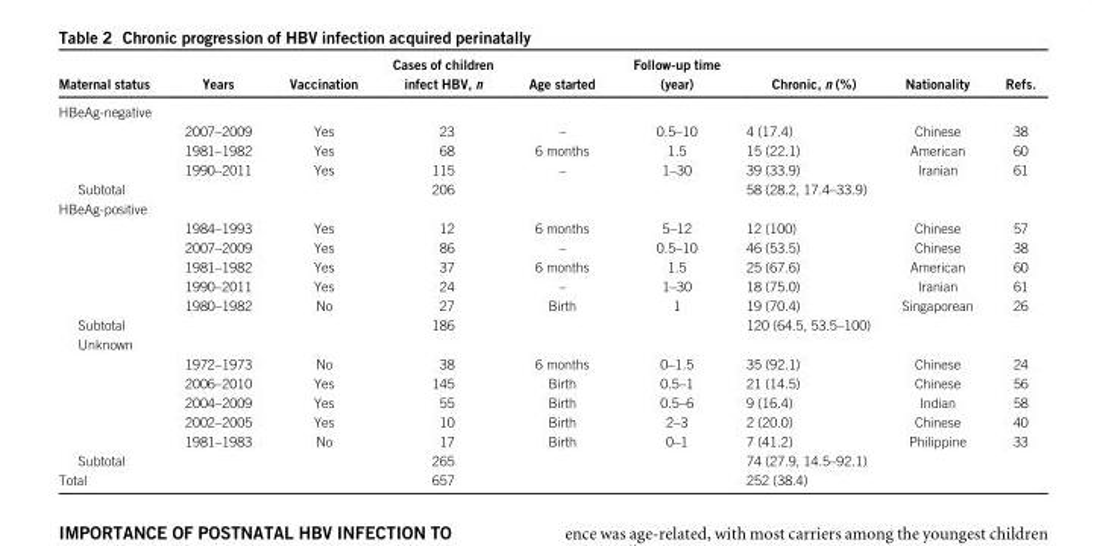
<table><tbody><tr><td>Maternal status</td><td>Years</td><td>Vaccination</td><td>Cases of children infect HBV, n</td><td>Age started</td><td>Follow-up time (year)</td><td>Chronic, n (%)</td><td>Nationality</td><td>Refs.</td></tr><tr><td colspan="9">HBeAg-negative</td></tr><tr><td></td><td>2007–2009</td><td>Yes</td><td>23</td><td>–</td><td>0.5–10</td><td>4 (17.4)</td><td>Chinese</td><td><sup>38</sup></td></tr><tr><td></td><td>1981–1982</td><td>Yes</td><td>68</td><td>6 months</td><td>1.5</td><td>15 (22.1)</td><td>American</td><td><sup>60</sup></td></tr><tr><td></td><td>1990–2011</td><td>Yes</td><td>115</td><td>–</td><td>1–30</td><td>39 (33.9)</td><td>Iranian</td><td><sup>61</sup></td></tr><tr><td>Subtotal</td><td></td><td></td><td>206</td><td></td><td></td><td>58 (28.2, 17.4–33.9)</td><td></td><td></td></tr><tr><td colspan="9">HBeAg-positive</td></tr><tr><td></td><td>1984–1993</td><td>Yes</td><td>12</td><td>6 months</td><td>5–12</td><td>12 (100)</td><td>Chinese</td><td><sup>57</sup></td></tr><tr><td></td><td>2007–2009</td><td>Yes</td><td>86</td><td>–</td><td>0.5–10</td><td>46 (53.5)</td><td>Chinese</td><td><sup>38</sup></td></tr><tr><td></td><td>1981–1982</td><td>Yes</td><td>37</td><td>6 months</td><td>1.5</td><td>25 (67.6)</td><td>American</td><td><sup>60</sup></td></tr><tr><td></td><td>1990–2011</td><td>Yes</td><td>24</td><td>–</td><td>1–30</td><td>18 (75.0)</td><td>Iranian</td><td><sup>61</sup></td></tr><tr><td></td><td>1980–1982</td><td>No</td><td>27</td><td>Birth</td><td>1</td><td>19 (70.4)</td><td>Singaporean</td><td><sup>26</sup></td></tr><tr><td>Subtotal</td><td></td><td></td><td>186</td><td></td><td></td><td>120 (64.5, 53.5–100)</td><td></td><td></td></tr><tr><td colspan="9">Unknown</td></tr><tr><td></td><td>1972–1973</td><td>No</td><td>38</td><td>6 months</td><td>0–1.5</td><td>35 (92.1)</td><td>Chinese</td><td><sup>24</sup></td></tr><tr><td></td><td>2006–2010</td><td>Yes</td><td>145</td><td>Birth</td><td>0.5–1</td><td>21 (14.5)</td><td>Chinese</td><td><sup>56</sup></td></tr><tr><td></td><td>2004–2009</td><td>Yes</td><td>55</td><td>Birth</td><td>0.5–6</td><td>9 (16.4)</td><td>Indian</td><td><sup>58</sup></td></tr><tr><td></td><td>2002–2005</td><td>Yes</td><td>10</td><td>Birth</td><td>2–3</td><td>2 (20.0)</td><td>Chinese</td><td><sup>40</sup></td></tr><tr><td></td><td>1981–1983</td><td>No</td><td>17</td><td>Birth</td><td>0–1</td><td>7 (41.2)</td><td>Philippine</td><td><sup>33</sup></td></tr><tr><td>Subtotal</td><td></td><td></td><td>265</td><td></td><td></td><td>74 (27.9, 14.5–92.1)</td><td></td><td></td></tr><tr><td>Total</td><td></td><td></td><td>657</td><td></td><td></td><td>252 (38.4)</td><td></td><td></td></tr></tbody></table>